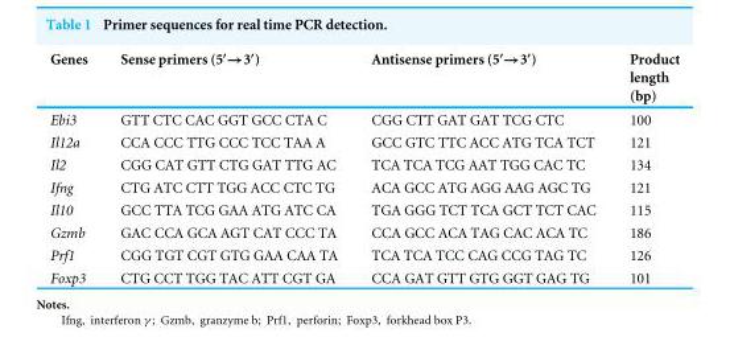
<table><thead><tr><td>Genes</td><td>Sense primers (5′→3′)</td><td>Antisense primers (5′→3′)</td><td>Product length (bp)</td></tr></thead><tbody><tr><td>Ebi3</td><td>GTT CTC CAC GGT GCC CTA C</td><td>CGG CTT GAT GAT TCG CTC</td><td>100</td></tr><tr><td>Il12a</td><td>CCA CCC TTG CCC TCC TAA A</td><td>GCC GTC TTC ACC ATG TCA TCT</td><td>121</td></tr><tr><td>Il2</td><td>CGG CAT GTT CTG GAT TTG AC</td><td>TCA TCA TCG AAT TGG CAC TC</td><td>134</td></tr><tr><td>Ifng</td><td>CTG ATC CTT TGG ACC CTC TG</td><td>ACA GCC ATG AGG AAG AGC TG</td><td>121</td></tr><tr><td>Il10</td><td>GCC TTA TCG GAA ATG ATC CA</td><td>TGA GGG TCT TCA GCT TCT CAC</td><td>115</td></tr><tr><td>Gzmb</td><td>GAC CCA GCA AGT CAT CCC TA</td><td>CCA GCC ACA TAG CAC ACA TC</td><td>186</td></tr><tr><td>Prf1</td><td>CGG TGT CGT GTG GAA CAA TA</td><td>TCA TCA TCC CAG CCG TAG TC</td><td>126</td></tr><tr><td>Foxp3</td><td>CTG CCT TGG TAC ATT CGT GA</td><td>CCA GAT GTT GTG GGT GAG TG</td><td>101</td></tr></tbody></table>